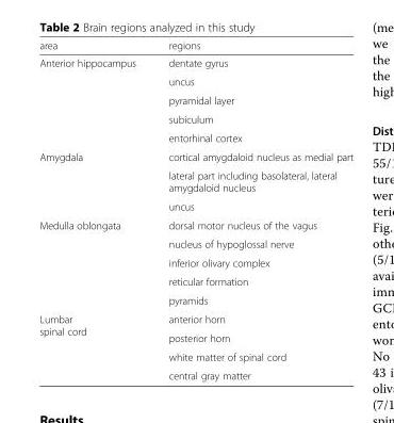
<table><thead><tr><td>area</td><td>regions</td></tr></thead><tbody><tr><td rowspan="5">Anterior hippocampus</td><td>dentate gyrus</td></tr><tr><td>uncus</td></tr><tr><td>pyramidal layer</td></tr><tr><td>subiculum</td></tr><tr><td>entorhinal cortex</td></tr><tr><td rowspan="3">Amygdala</td><td>cortical amygdaloid nucleus as medial part</td></tr><tr><td>lateral part including basolateral, lateral amygdaloid nucleus</td></tr><tr><td>uncus</td></tr><tr><td rowspan="5">Medulla oblongata</td><td>dorsal motor nucleus of the vagus</td></tr><tr><td>nucleus of hypoglossal nerve</td></tr><tr><td>inferior olivary complex</td></tr><tr><td>reticular formation</td></tr><tr><td>pyramids</td></tr><tr><td rowspan="4">Lumbar spinal cord</td><td>anterior horn</td></tr><tr><td>posterior horn</td></tr><tr><td>white matter of spinal cord</td></tr><tr><td>central gray matter</td></tr></tbody></table>